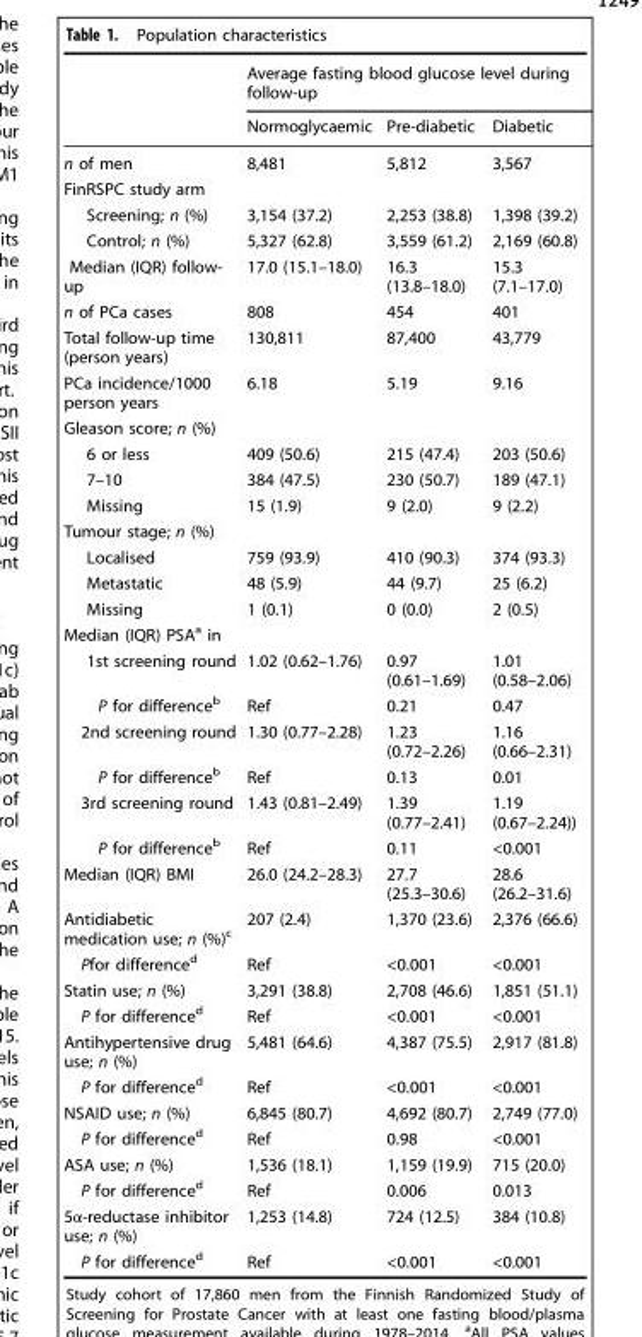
<table><thead><tr><td rowspan="2"></td><td colspan="3">Average fasting blood glucose level during follow-up</td></tr><tr><td>Normoglycaemic</td><td>Pre-diabetic</td><td>Diabetic</td></tr></thead><tbody><tr><td>n of men</td><td>8,481</td><td>5,812</td><td>3,567</td></tr><tr><td colspan="4">FinRSPC study arm</td></tr><tr><td>Screening; n (%)</td><td>3,154 (37.2)</td><td>2,253 (38.8)</td><td>1,398 (39.2)</td></tr><tr><td>Control; n (%)</td><td>5,327 (62.8)</td><td>3,559 (61.2)</td><td>2,169 (60.8)</td></tr><tr><td>Median (IQR) follow- up</td><td>17.0 (15.1–18.0)</td><td>16.3 (13.8–18.0)</td><td>15.3 (7.1–17.0)</td></tr><tr><td>n of PCa cases</td><td>808</td><td>454</td><td>401</td></tr><tr><td>Total follow-up time (person years)</td><td>130,811</td><td>87,400</td><td>43,779</td></tr><tr><td>PCa incidence/1000 person years</td><td>6.18</td><td>5.19</td><td>9.16</td></tr><tr><td colspan="4">Gleason score; n (%)</td></tr><tr><td>6 or less</td><td>409 (50.6)</td><td>215 (47.4)</td><td>203 (50.6)</td></tr><tr><td>7–10</td><td>384 (47.5)</td><td>230 (50.7)</td><td>189 (47.1)</td></tr><tr><td>Missing</td><td>15 (1.9)</td><td>9 (2.0)</td><td>9 (2.2)</td></tr><tr><td colspan="4">Tumour stage; n (%)</td></tr><tr><td>Localised</td><td>759 (93.9)</td><td>410 (90.3)</td><td>374 (93.3)</td></tr><tr><td>Metastatic</td><td>48 (5.9)</td><td>44 (9.7)</td><td>25 (6.2)</td></tr><tr><td>Missing</td><td>1 (0.1)</td><td>0 (0.0)</td><td>2 (0.5)</td></tr><tr><td colspan="4">Median (IQR) PSA<sup>a</sup> in</td></tr><tr><td>1st screening round</td><td>1.02 (0.62–1.76)</td><td>0.97 (0.61–1.69)</td><td>1.01 (0.58–2.06)</td></tr><tr><td>P for difference<sup>b</sup></td><td>Ref</td><td>0.21</td><td>0.47</td></tr><tr><td>2nd screening round</td><td>1.30 (0.77–2.28)</td><td>1.23 (0.72–2.26)</td><td>1.16 (0.66–2.31)</td></tr><tr><td>P for difference<sup>b</sup></td><td>Ref</td><td>0.13</td><td>0.01</td></tr><tr><td>3rd screening round</td><td>1.43 (0.81–2.49)</td><td>1.39 (0.77–2.41)</td><td>1.19 (0.67–2.24))</td></tr><tr><td>P for difference<sup>b</sup></td><td>Ref</td><td>0.11</td><td>&lt;0.001</td></tr><tr><td>Median (IQR) BMI</td><td>26.0 (24.2–28.3)</td><td>27.7 (25.3–30.6)</td><td>28.6 (26.2–31.6)</td></tr><tr><td>Antidiabetic medication use; n (%)<sup>c</sup></td><td>207 (2.4)</td><td>1,370 (23.6)</td><td>2,376 (66.6)</td></tr><tr><td>Pfor difference<sup>d</sup></td><td>Ref</td><td>&lt;0.001</td><td>&lt;0.001</td></tr><tr><td>Statin use; n (%)</td><td>3,291 (38.8)</td><td>2,708 (46.6)</td><td>1,851 (51.1)</td></tr><tr><td>P for difference<sup>d</sup></td><td>Ref</td><td>&lt;0.001</td><td>&lt;0.001</td></tr><tr><td>Antihypertensive drug use; n (%)</td><td>5,481 (64.6)</td><td>4,387 (75.5)</td><td>2,917 (81.8)</td></tr><tr><td>P for difference<sup>d</sup></td><td>Ref</td><td>&lt;0.001</td><td>&lt;0.001</td></tr><tr><td>NSAID use; n (%)</td><td>6,845 (80.7)</td><td>4,692 (80.7)</td><td>2,749 (77.0)</td></tr><tr><td>P for difference<sup>d</sup></td><td>Ref</td><td>0.98</td><td>&lt;0.001</td></tr><tr><td>ASA use; n (%)</td><td>1,536 (18.1)</td><td>1,159 (19.9)</td><td>715 (20.0)</td></tr><tr><td>P for difference<sup>d</sup></td><td>Ref</td><td>0.006</td><td>0.013</td></tr><tr><td>5α-reductase inhibitor use; n (%)</td><td>1,253 (14.8)</td><td>724 (12.5)</td><td>384 (10.8)</td></tr><tr><td>P for difference<sup>d</sup></td><td>Ref</td><td>&lt;0.001</td><td>&lt;0.001</td></tr></tbody></table>